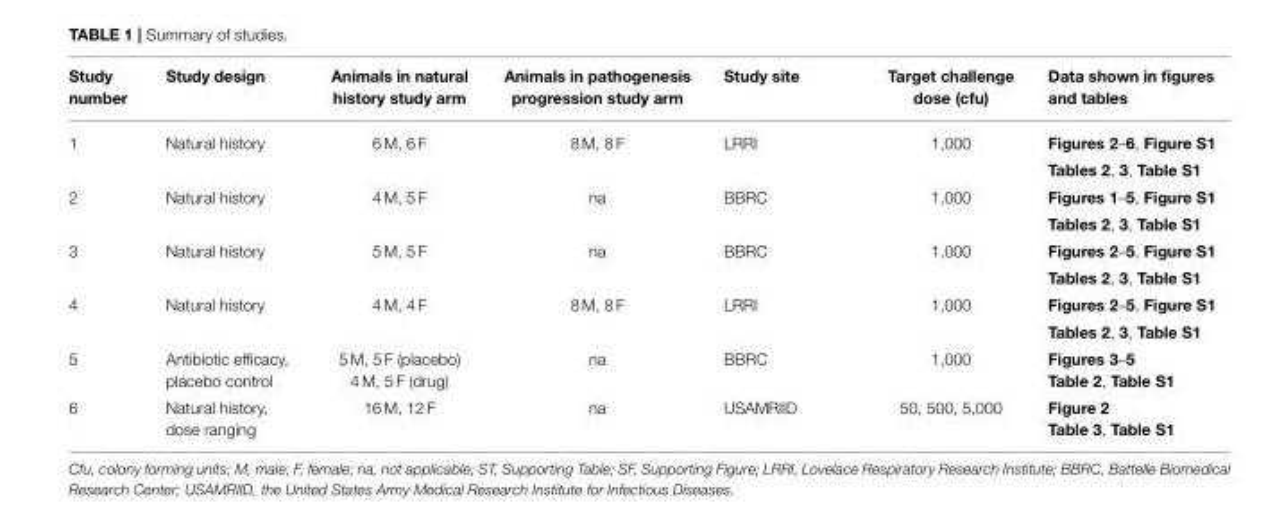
<table><thead><tr><td>Study number</td><td>Study design</td><td>Animals in natural history study arm</td><td>Animals in pathogenesis progression study arm</td><td>Study site</td><td>Target challenge dose (cfu)</td><td>Data shown in figures and tables</td></tr></thead><tbody><tr><td rowspan="2">1</td><td>Natural history</td><td>6 M, 6 F</td><td>8 M, 8 F</td><td>LRRI</td><td>1,000</td><td>Figures 2–6, Figure S1</td></tr><tr><td></td><td></td><td></td><td></td><td></td><td>Tables 2, 3, Table S1</td></tr><tr><td rowspan="2">2</td><td>Natural history</td><td>4 M, 5 F</td><td>na</td><td>BBRC</td><td>1,000</td><td>Figures 1–5, Figure S1</td></tr><tr><td></td><td></td><td></td><td></td><td></td><td>Tables 2, 3, Table S1</td></tr><tr><td rowspan="2">3</td><td>Natural history</td><td>5 M, 5 F</td><td>na</td><td>BBRC</td><td>1,000</td><td>Figures 2–5, Figure S1</td></tr><tr><td></td><td></td><td></td><td></td><td></td><td>Tables 2, 3, Table S1</td></tr><tr><td rowspan="2">4</td><td>Natural history</td><td>4 M, 4 F</td><td>8 M, 8 F</td><td>LRRI</td><td>1,000</td><td>Figures 2–5, Figure S1</td></tr><tr><td></td><td></td><td></td><td></td><td></td><td>Tables 2, 3, Table S1</td></tr><tr><td>5</td><td>Antibiotic efficacy, placebo control</td><td>5 M, 5 F (placebo) 4 M, 5 F (drug)</td><td>na</td><td>BBRC</td><td>1,000</td><td>Figures 3–5 Table 2, Table S1</td></tr><tr><td>6</td><td>Natural history, dose ranging</td><td>16 M, 12 F</td><td>na</td><td>USAMRIID</td><td>50, 500, 5,000</td><td>Figure 2 Table 3, Table S1</td></tr></tbody></table>